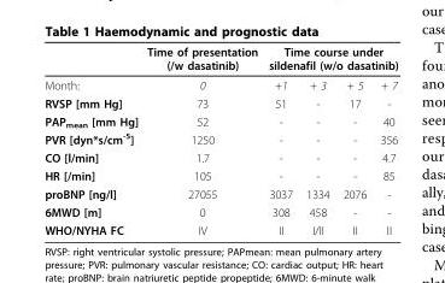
<table><thead><tr><td rowspan="2">Month:</td><td rowspan="2">Time of presentation (/w dasatinib) 0</td><td colspan="4">Time course under sildenafil (w/o dasatinib)</td></tr><tr><td>+1</td><td>+ 3</td><td>+ 5</td><td>+ 7</td></tr></thead><tbody><tr><td>RVSP [mm Hg]</td><td>73</td><td>51</td><td>-</td><td>17</td><td>-</td></tr><tr><td>PAP<sub>mean</sub> [mm Hg]</td><td>52</td><td>-</td><td>-</td><td>-</td><td>40</td></tr><tr><td>PVR [dyn*s/cm<sup>-5</sup>]</td><td>1250</td><td>-</td><td>-</td><td>-</td><td>356</td></tr><tr><td>CO [l/min]</td><td>1.7</td><td>-</td><td>-</td><td>-</td><td>4.7</td></tr><tr><td>HR [/min]</td><td>105</td><td>-</td><td>-</td><td>-</td><td>85</td></tr><tr><td>proBNP [ng/l]</td><td>27055</td><td>3037</td><td>1334</td><td>2076</td><td>-</td></tr><tr><td>6MWD [m]</td><td>0</td><td>308</td><td>458</td><td>-</td><td>-</td></tr><tr><td>WHO/NYHA FC</td><td>IV</td><td>II</td><td>I/II</td><td>II</td><td>II</td></tr></tbody></table>